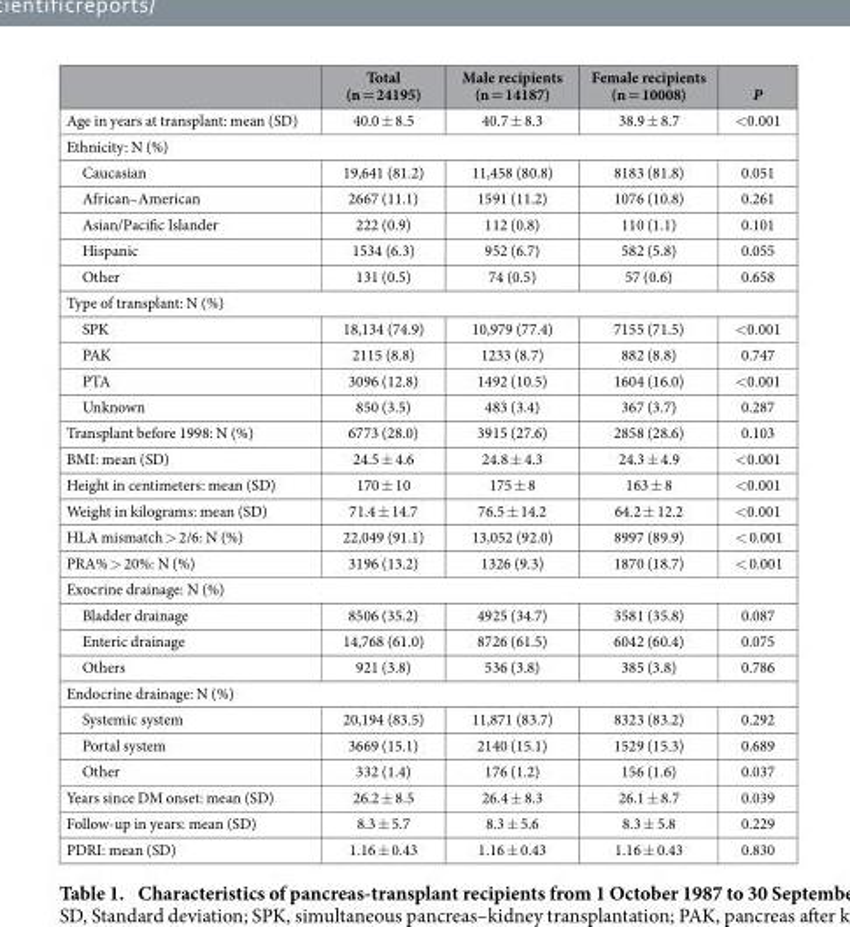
<table><thead><tr><td></td><td>Total (n = 24195)</td><td>Male recipients (n = 14187)</td><td>Female recipients (n = 10008)</td><td>P</td></tr></thead><tbody><tr><td>Age in years at transplant: mean (SD)</td><td>40.0 ± 8.5</td><td>40.7 ± 8.3</td><td>38.9 ± 8.7</td><td>&lt; 0.001</td></tr><tr><td colspan="5">Ethnicity: N (%)</td></tr><tr><td>Caucasian</td><td>19,641 (81.2)</td><td>11,458 (80.8)</td><td>8183 (81.8)</td><td>0.051</td></tr><tr><td>African–American</td><td>2667 (11.1)</td><td>1591 (11.2)</td><td>1076 (10.8)</td><td>0.261</td></tr><tr><td>Asian/Pacific Islander</td><td>222 (0.9)</td><td>112 (0.8)</td><td>110 (1.1)</td><td>0.101</td></tr><tr><td>Hispanic</td><td>1534 (6.3)</td><td>952 (6.7)</td><td>582 (5.8)</td><td>0.055</td></tr><tr><td>Other</td><td>131 (0.5)</td><td>74 (0.5)</td><td>57 (0.6)</td><td>0.658</td></tr><tr><td colspan="5">Type of transplant: N (%)</td></tr><tr><td>SPK</td><td>18,134 (74.9)</td><td>10,979 (77.4)</td><td>7155 (71.5)</td><td>&lt; 0.001</td></tr><tr><td>PAK</td><td>2115 (8.8)</td><td>1233 (8.7)</td><td>882 (8.8)</td><td>0.747</td></tr><tr><td>PTA</td><td>3096 (12.8)</td><td>1492 (10.5)</td><td>1604 (16.0)</td><td>&lt; 0.001</td></tr><tr><td>Unknown</td><td>850 (3.5)</td><td>483 (3.4)</td><td>367 (3.7)</td><td>0.287</td></tr><tr><td>Transplant before 1998: N (%)</td><td>6773 (28.0)</td><td>3915 (27.6)</td><td>2858 (28.6)</td><td>0.103</td></tr><tr><td>BMI: mean (SD)</td><td>24.5 ± 4.6</td><td>24.8 ± 4.3</td><td>24.3 ± 4.9</td><td>&lt; 0.001</td></tr><tr><td>Height in centimeters: mean (SD)</td><td>170 ± 10</td><td>175 ± 8</td><td>163 ± 8</td><td>&lt; 0.001</td></tr><tr><td>Weight in kilograms: mean (SD)</td><td>71.4 ± 14.7</td><td>76.5 ± 14.2</td><td>64.2 ± 12.2</td><td>&lt; 0.001</td></tr><tr><td>HLA mismatch &gt; 2/6: N (%)</td><td>22,049 (91.1)</td><td>13,052 (92.0)</td><td>8997 (89.9)</td><td>&lt; 0.001</td></tr><tr><td>PRA% &gt; 20%: N (%)</td><td>3196 (13.2)</td><td>1326 (9.3)</td><td>1870 (18.7)</td><td>&lt; 0.001</td></tr><tr><td colspan="5">Exocrine drainage: N (%)</td></tr><tr><td>Bladder drainage</td><td>8506 (35.2)</td><td>4925 (34.7)</td><td>3581 (35.8)</td><td>0.087</td></tr><tr><td>Enteric drainage</td><td>14,768 (61.0)</td><td>8726 (61.5)</td><td>6042 (60.4)</td><td>0.075</td></tr><tr><td>Others</td><td>921 (3.8)</td><td>536 (3.8)</td><td>385 (3.8)</td><td>0.786</td></tr><tr><td colspan="5">Endocrine drainage: N (%)</td></tr><tr><td>Systemic system</td><td>20,194 (83.5)</td><td>11,871 (83.7)</td><td>8323 (83.2)</td><td>0.292</td></tr><tr><td>Portal system</td><td>3669 (15.1)</td><td>2140 (15.1)</td><td>1529 (15.3)</td><td>0.689</td></tr><tr><td>Other</td><td>332 (1.4)</td><td>176 (1.2)</td><td>156 (1.6)</td><td>0.037</td></tr><tr><td>Years since DM onset: mean (SD)</td><td>26.2 ± 8.5</td><td>26.4 ± 8.3</td><td>26.1 ± 8.7</td><td>0.039</td></tr><tr><td>Follow-up in years: mean (SD)</td><td>8.3 ± 5.7</td><td>8.3 ± 5.6</td><td>8.3 ± 5.8</td><td>0.229</td></tr><tr><td>PDRI: mean (SD)</td><td>1.16 ± 0.43</td><td>1.16 ± 0.43</td><td>1.16 ± 0.43</td><td>0.830</td></tr></tbody></table>